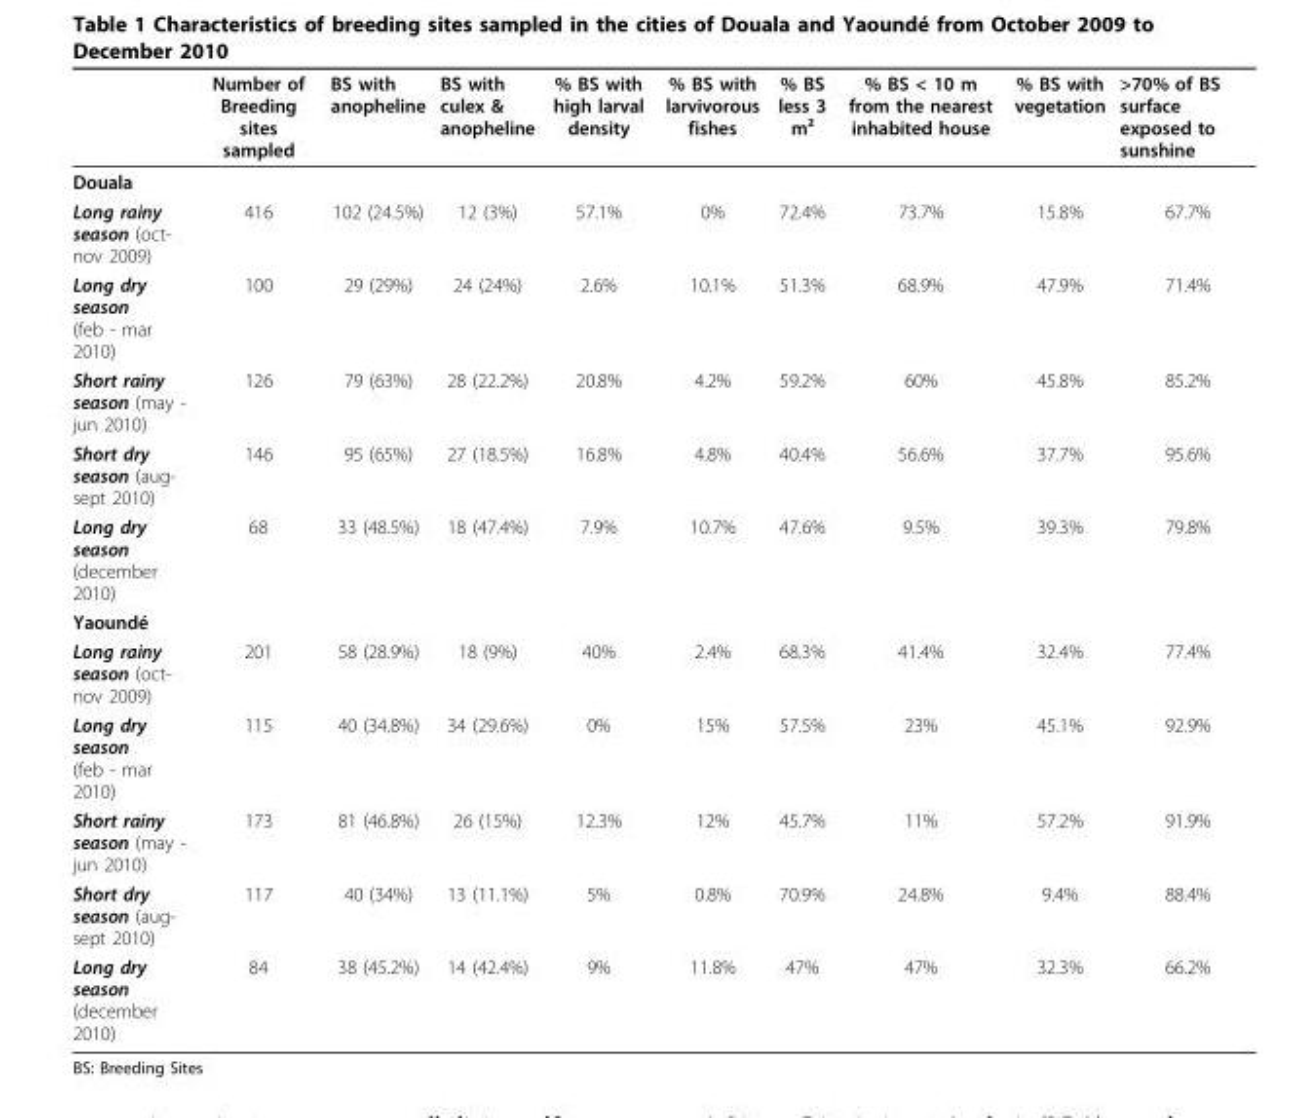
<table><thead><tr><td></td><td>Number of Breeding sites sampled</td><td>BS with anopheline</td><td>BS with culex &amp; anopheline</td><td>% BS with high larval density</td><td>% BS with larvivorous fishes</td><td>% BS less 3 m²</td><td>% BS &lt; 10 m from the nearest inhabited house</td><td>% BS with vegetation</td><td>&gt;70% of BS surface exposed to sunshine</td></tr></thead><tbody><tr><td colspan="10">Douala</td></tr><tr><td>Long rainy season (oct- nov 2009)</td><td>416</td><td>102 (24.5%)</td><td>12 (3%)</td><td>57.1%</td><td>0%</td><td>72.4%</td><td>73.7%</td><td>15.8%</td><td>67.7%</td></tr><tr><td>Long dry season (feb - mar 2010)</td><td>100</td><td>29 (29%)</td><td>24 (24%)</td><td>2.6%</td><td>10.1%</td><td>51.3%</td><td>68.9%</td><td>47.9%</td><td>71.4%</td></tr><tr><td>Short rainy season (may - jun 2010)</td><td>126</td><td>79 (63%)</td><td>28 (22.2%)</td><td>20.8%</td><td>4.2%</td><td>59.2%</td><td>60%</td><td>45.8%</td><td>85.2%</td></tr><tr><td>Short dry season (aug- sept 2010)</td><td>146</td><td>95 (65%)</td><td>27 (18.5%)</td><td>16.8%</td><td>4.8%</td><td>40.4%</td><td>56.6%</td><td>37.7%</td><td>95.6%</td></tr><tr><td>Long dry season (december 2010)</td><td>68</td><td>33 (48.5%)</td><td>18 (47.4%)</td><td>7.9%</td><td>10.7%</td><td>47.6%</td><td>9.5%</td><td>39.3%</td><td>79.8%</td></tr><tr><td colspan="10">Yaoundé</td></tr><tr><td>Long rainy season (oct- nov 2009)</td><td>201</td><td>58 (28.9%)</td><td>18 (9%)</td><td>40%</td><td>2.4%</td><td>68.3%</td><td>41.4%</td><td>32.4%</td><td>77.4%</td></tr><tr><td>Long dry season (feb - mar 2010)</td><td>115</td><td>40 (34.8%)</td><td>34 (29.6%)</td><td>0%</td><td>15%</td><td>57.5%</td><td>23%</td><td>45.1%</td><td>92.9%</td></tr><tr><td>Short rainy season (may - jun 2010)</td><td>173</td><td>81 (46.8%)</td><td>26 (15%)</td><td>12.3%</td><td>12%</td><td>45.7%</td><td>11%</td><td>57.2%</td><td>91.9%</td></tr><tr><td>Short dry season (aug- sept 2010)</td><td>117</td><td>40 (34%)</td><td>13 (11.1%)</td><td>5%</td><td>0.8%</td><td>70.9%</td><td>24.8%</td><td>9.4%</td><td>88.4%</td></tr><tr><td>Long dry season (december 2010)</td><td>84</td><td>38 (45.2%)</td><td>14 (42.4%)</td><td>9%</td><td>11.8%</td><td>47%</td><td>47%</td><td>32.3%</td><td>66.2%</td></tr></tbody></table>